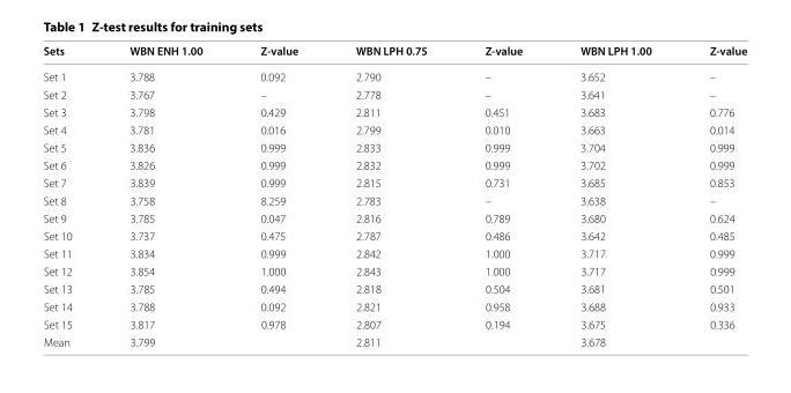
<table><thead><tr><td>Sets</td><td>WBN ENH 1.00</td><td>Z-value</td><td>WBN LPH 0.75</td><td>Z-value</td><td>WBN LPH 1.00</td><td>Z-value</td></tr></thead><tbody><tr><td>Set 1</td><td>3.788</td><td>0.092</td><td>2.790</td><td>–</td><td>3.652</td><td>–</td></tr><tr><td>Set 2</td><td>3.767</td><td>–</td><td>2.778</td><td>–</td><td>3.641</td><td>–</td></tr><tr><td>Set 3</td><td>3.798</td><td>0.429</td><td>2.811</td><td>0.451</td><td>3.683</td><td>0.776</td></tr><tr><td>Set 4</td><td>3.781</td><td>0.016</td><td>2.799</td><td>0.010</td><td>3.663</td><td>0.014</td></tr><tr><td>Set 5</td><td>3.836</td><td>0.999</td><td>2.833</td><td>0.999</td><td>3.704</td><td>0.999</td></tr><tr><td>Set 6</td><td>3.826</td><td>0.999</td><td>2.832</td><td>0.999</td><td>3.702</td><td>0.999</td></tr><tr><td>Set 7</td><td>3.839</td><td>0.999</td><td>2.815</td><td>0.731</td><td>3.685</td><td>0.853</td></tr><tr><td>Set 8</td><td>3.758</td><td>8.259</td><td>2.783</td><td>–</td><td>3.638</td><td>–</td></tr><tr><td>Set 9</td><td>3.785</td><td>0.047</td><td>2.816</td><td>0.789</td><td>3.680</td><td>0.624</td></tr><tr><td>Set 10</td><td>3.737</td><td>0.475</td><td>2.787</td><td>0.486</td><td>3.642</td><td>0.485</td></tr><tr><td>Set 11</td><td>3.834</td><td>0.999</td><td>2.842</td><td>1.000</td><td>3.717</td><td>0.999</td></tr><tr><td>Set 12</td><td>3.854</td><td>1.000</td><td>2.843</td><td>1.000</td><td>3.717</td><td>0.999</td></tr><tr><td>Set 13</td><td>3.785</td><td>0.494</td><td>2.818</td><td>0.504</td><td>3.681</td><td>0.501</td></tr><tr><td>Set 14</td><td>3.788</td><td>0.092</td><td>2.821</td><td>0.958</td><td>3.688</td><td>0.933</td></tr><tr><td>Set 15</td><td>3.817</td><td>0.978</td><td>2.807</td><td>0.194</td><td>3.675</td><td>0.336</td></tr><tr><td>Mean</td><td>3.799</td><td></td><td>2.811</td><td></td><td>3.678</td><td></td></tr></tbody></table>